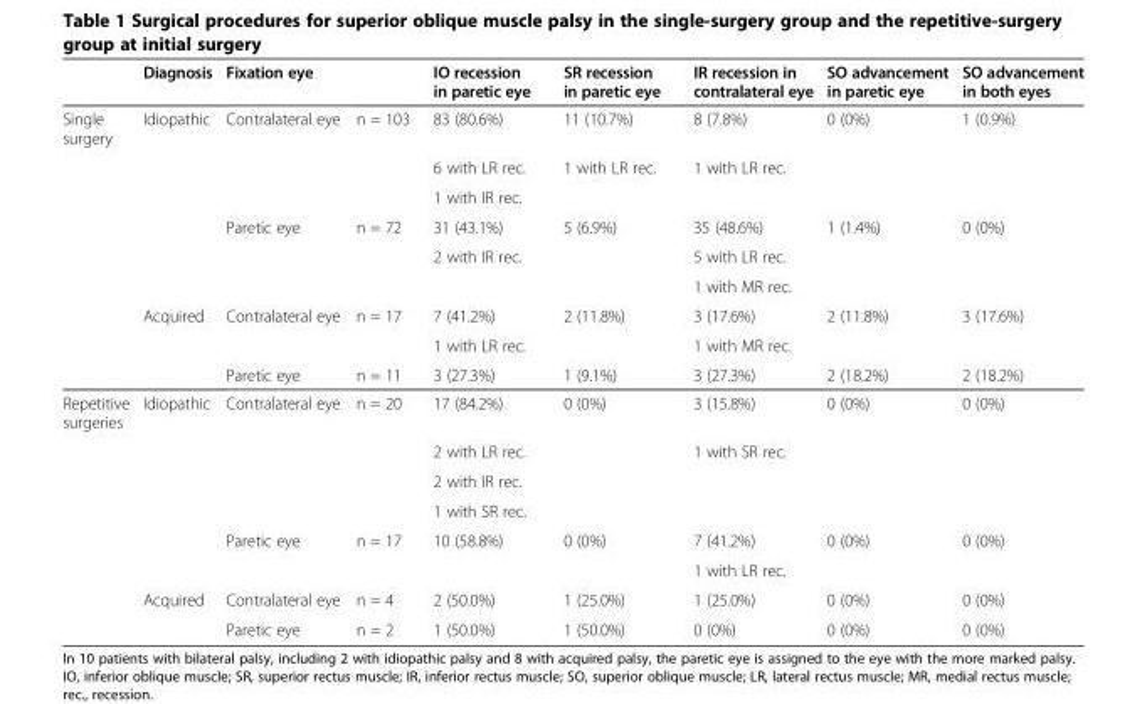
<table><thead><tr><td></td><td>Diagnosis</td><td>Fixation eye</td><td></td><td>IO recession in paretic eye</td><td>SR recession in paretic eye</td><td>IR recession in contralateral eye</td><td>SO advancement in paretic eye</td><td>SO advancement in both eyes</td></tr></thead><tbody><tr><td rowspan="9">Single surgery</td><td>Idiopathic</td><td>Contralateral eye</td><td>n = 103</td><td>83 (80.6%)</td><td>11 (10.7%)</td><td>8 (7.8%)</td><td>0 (0%)</td><td>1 (0.9%)</td></tr><tr><td></td><td></td><td></td><td>6 with LR rec.</td><td>1 with LR rec.</td><td>1 with LR rec.</td><td></td><td></td></tr><tr><td></td><td></td><td></td><td>1 with IR rec.</td><td></td><td></td><td></td><td></td></tr><tr><td></td><td>Paretic eye</td><td>n = 72</td><td>31 (43.1%)</td><td>5 (6.9%)</td><td>35 (48.6%)</td><td>1 (1.4%)</td><td>0 (0%)</td></tr><tr><td></td><td></td><td></td><td>2 with IR rec.</td><td></td><td>5 with LR rec.</td><td></td><td></td></tr><tr><td></td><td></td><td></td><td></td><td></td><td>1 with MR rec.</td><td></td><td></td></tr><tr><td>Acquired</td><td>Contralateral eye</td><td>n = 17</td><td>7 (41.2%)</td><td>2 (11.8%)</td><td>3 (17.6%)</td><td>2 (11.8%)</td><td>3 (17.6%)</td></tr><tr><td></td><td></td><td></td><td>1 with LR rec.</td><td></td><td>1 with MR rec.</td><td></td><td></td></tr><tr><td></td><td>Paretic eye</td><td>n = 11</td><td>3 (27.3%)</td><td>1 (9.1%)</td><td>3 (27.3%)</td><td>2 (18.2%)</td><td>2 (18.2%)</td></tr><tr><td rowspan="8">Repetitive surgeries</td><td>Idiopathic</td><td>Contralateral eye</td><td>n = 20</td><td>17 (84.2%)</td><td>0 (0%)</td><td>3 (15.8%)</td><td>0 (0%)</td><td>0 (0%)</td></tr><tr><td></td><td></td><td></td><td>2 with LR rec.</td><td></td><td>1 with SR rec.</td><td></td><td></td></tr><tr><td></td><td></td><td></td><td>2 with IR rec.</td><td></td><td></td><td></td><td></td></tr><tr><td></td><td></td><td></td><td>1 with SR rec.</td><td></td><td></td><td></td><td></td></tr><tr><td></td><td>Paretic eye</td><td>n = 17</td><td>10 (58.8%)</td><td>0 (0%)</td><td>7 (41.2%)</td><td>0 (0%)</td><td>0 (0%)</td></tr><tr><td></td><td></td><td></td><td></td><td></td><td>1 with LR rec.</td><td></td><td></td></tr><tr><td>Acquired</td><td>Contralateral eye</td><td>n = 4</td><td>2 (50.0%)</td><td>1 (25.0%)</td><td>1 (25.0%)</td><td>0 (0%)</td><td>0 (0%)</td></tr><tr><td></td><td>Paretic eye</td><td>n = 2</td><td>1 (50.0%)</td><td>1 (50.0%)</td><td>0 (0%)</td><td>0 (0%)</td><td>0 (0%)</td></tr></tbody></table>